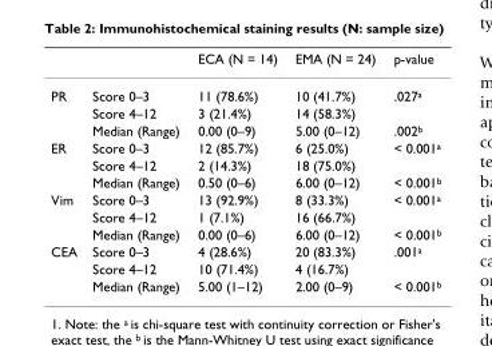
<table><thead><tr><td></td><td></td><td>ECA (N = 14)</td><td>EMA (N = 24)</td><td>p-value</td></tr></thead><tbody><tr><td rowspan="3">PR</td><td>Score 0–3</td><td>11 (78.6%)</td><td>10 (41.7%)</td><td>.027<sup>a</sup></td></tr><tr><td>Score 4–12</td><td>3 (21.4%)</td><td>14 (58.3%)</td><td></td></tr><tr><td>Median (Range)</td><td>0.00 (0–9)</td><td>5.00 (0–12)</td><td>.002<sup>b</sup></td></tr><tr><td rowspan="3">ER</td><td>Score 0–3</td><td>12 (85.7%)</td><td>6 (25.0%)</td><td>&lt; 0.001<sup>a</sup></td></tr><tr><td>Score 4–12</td><td>2 (14.3%)</td><td>18 (75.0%)</td><td></td></tr><tr><td>Median (Range)</td><td>0.50 (0–6)</td><td>6.00 (0–12)</td><td>&lt; 0.001<sup>b</sup></td></tr><tr><td rowspan="3">Vim</td><td>Score 0–3</td><td>13 (92.9%)</td><td>8 (33.3%)</td><td>&lt; 0.001<sup>a</sup></td></tr><tr><td>Score 4–12</td><td>1 (7.1%)</td><td>16 (66.7%)</td><td></td></tr><tr><td>Median (Range)</td><td>0.00 (0–6)</td><td>6.00 (0–12)</td><td>&lt; 0.001<sup>b</sup></td></tr><tr><td rowspan="3">CEA</td><td>Score 0–3</td><td>4 (28.6%)</td><td>20 (83.3%)</td><td>.001<sup>a</sup></td></tr><tr><td>Score 4–12</td><td>10 (71.4%)</td><td>4 (16.7%)</td><td></td></tr><tr><td>Median (Range)</td><td>5.00 (1–12)</td><td>2.00 (0–9)</td><td>&lt; 0.001<sup>b</sup></td></tr></tbody></table>